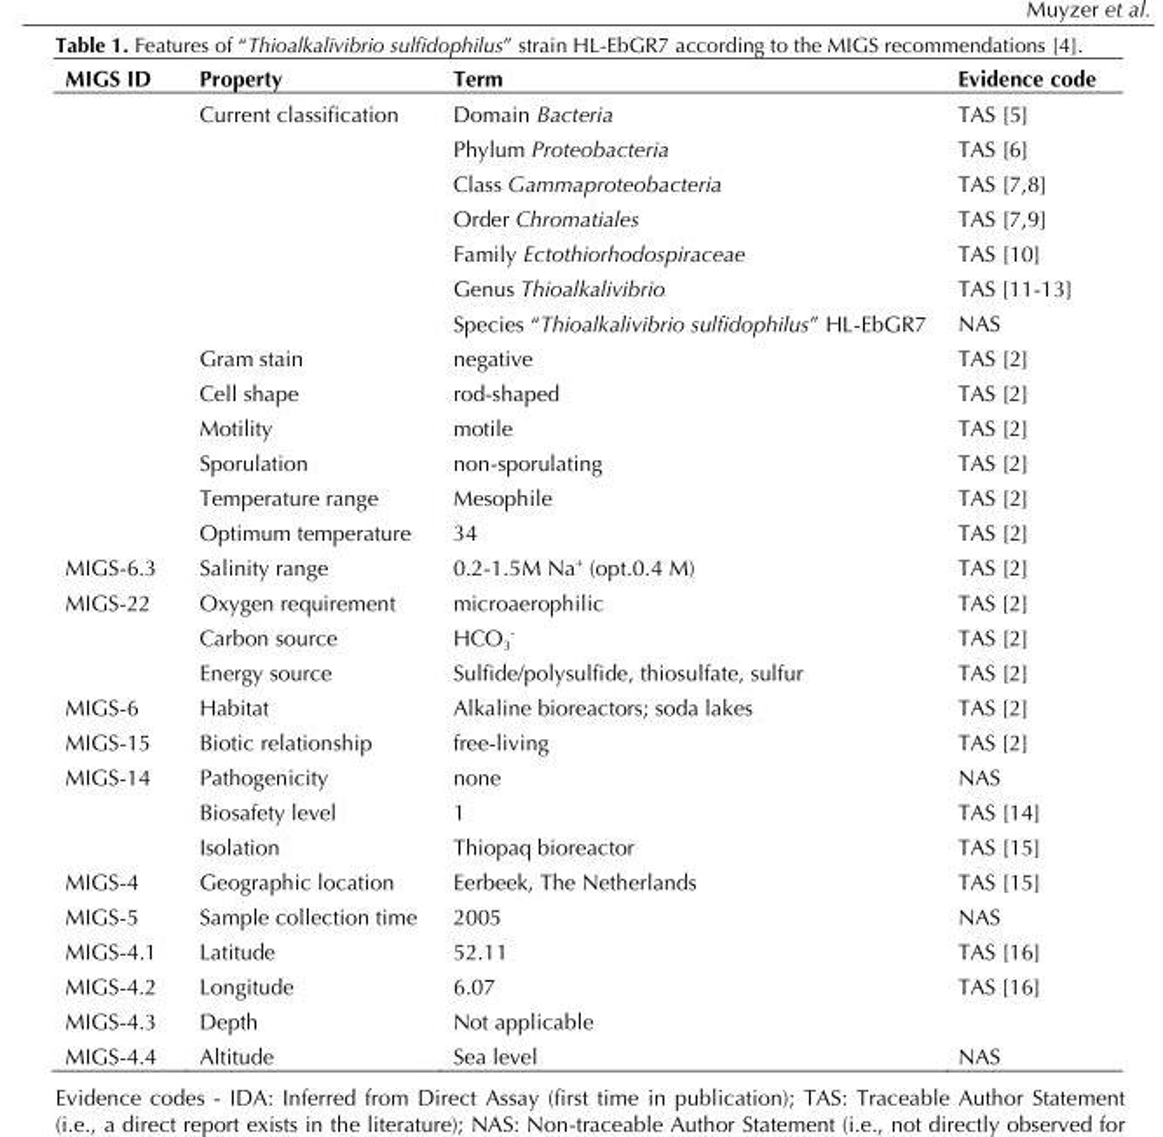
<table><thead><tr><td>MIGS ID</td><td>Property</td><td>Term</td><td>Evidence code</td></tr></thead><tbody><tr><td></td><td>Current classification</td><td>Domain Bacteria</td><td>TAS [5]</td></tr><tr><td></td><td></td><td>Phylum Proteobacteria</td><td>TAS [6]</td></tr><tr><td></td><td></td><td>Class Gammaproteobacteria</td><td>TAS [7,8]</td></tr><tr><td></td><td></td><td>Order Chromatiales</td><td>TAS [7,9]</td></tr><tr><td></td><td></td><td>Family Ectothiorhodospiraceae</td><td>TAS [10]</td></tr><tr><td></td><td></td><td>Genus Thioalkalivibrio</td><td>TAS [11-13]</td></tr><tr><td></td><td></td><td>Species “Thioalkalivibrio sulfidophilus” HL-EbGR7</td><td>NAS</td></tr><tr><td></td><td>Gram stain</td><td>negative</td><td>TAS [2]</td></tr><tr><td></td><td>Cell shape</td><td>rod-shaped</td><td>TAS [2]</td></tr><tr><td></td><td>Motility</td><td>motile</td><td>TAS [2]</td></tr><tr><td></td><td>Sporulation</td><td>non-sporulating</td><td>TAS [2]</td></tr><tr><td></td><td>Temperature range</td><td>Mesophile</td><td>TAS [2]</td></tr><tr><td></td><td>Optimum temperature</td><td>34</td><td>TAS [2]</td></tr><tr><td>MIGS-6.3</td><td>Salinity range</td><td>0.2-1.5M Na<sup>+</sup> (opt.0.4 M)</td><td>TAS [2]</td></tr><tr><td rowspan="3">MIGS-22</td><td>Oxygen requirement</td><td>microaerophilic</td><td>TAS [2]</td></tr><tr><td>Carbon source</td><td>HCO<sub>3</sub> <sup>-</sup></td><td>TAS [2]</td></tr><tr><td>Energy source</td><td>Sulfide/polysulfide, thiosulfate, sulfur</td><td>TAS [2]</td></tr><tr><td>MIGS-6</td><td>Habitat</td><td>Alkaline bioreactors; soda lakes</td><td>TAS [2]</td></tr><tr><td>MIGS-15</td><td>Biotic relationship</td><td>free-living</td><td>TAS [2]</td></tr><tr><td rowspan="3">MIGS-14</td><td>Pathogenicity</td><td>none</td><td>NAS</td></tr><tr><td>Biosafety level</td><td>1</td><td>TAS [14]</td></tr><tr><td>Isolation</td><td>Thiopaq bioreactor</td><td>TAS [15]</td></tr><tr><td>MIGS-4</td><td>Geographic location</td><td>Eerbeek, The Netherlands</td><td>TAS [15]</td></tr><tr><td>MIGS-5</td><td>Sample collection time</td><td>2005</td><td>NAS</td></tr><tr><td>MIGS-4.1</td><td>Latitude</td><td>52.11</td><td>TAS [16]</td></tr><tr><td>MIGS-4.2</td><td>Longitude</td><td>6.07</td><td>TAS [16]</td></tr><tr><td>MIGS-4.3</td><td>Depth</td><td>Not applicable</td><td></td></tr><tr><td>MIGS-4.4</td><td>Altitude</td><td>Sea level</td><td>NAS</td></tr></tbody></table>